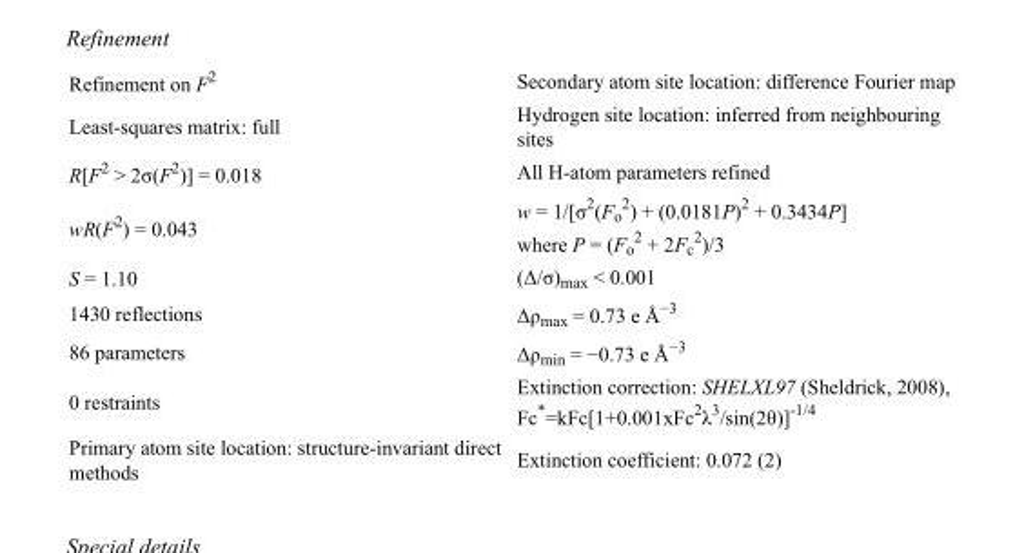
<table><tbody><tr><td>Refinement on F<sup>2</sup></td><td>Secondary atom site location: difference Fourier map</td></tr><tr><td>Least-squares matrix: full</td><td>Hydrogen site location: inferred from neighbouring sites</td></tr><tr><td>R[F<sup>2</sup> &gt; 2σ(F<sup>2</sup>)] = 0.018</td><td>All H-atom parameters refined</td></tr><tr><td>wR(F<sup>2</sup>) = 0.043</td><td>w = 1/[σ<sup>2</sup>(F<sub>o</sub> <sup>2</sup>) + (0.0181P)<sup>2</sup> + 0.3434P] where P = (F<sub>o</sub> <sup>2</sup> + 2F<sub>c</sub> <sup>2</sup>)/3</td></tr><tr><td>S = 1.10</td><td>(Δ/σ)<sub>max</sub> &lt; 0.001</td></tr><tr><td>1430 reflections</td><td>Δρ<sub>max</sub> = 0.73 e Å<sup>−3</sup></td></tr><tr><td>86 parameters</td><td>Δρ<sub>min</sub> = −0.73 e Å<sup>−3</sup></td></tr><tr><td>0 restraints</td><td>Extinction correction: SHELXL97 (Sheldrick, 2008), Fc*=kFc[1+0.001xFc<sup>2</sup>λ<sup>3</sup>/sin(2θ)]<sup>-1/4</sup></td></tr><tr><td>Primary atom site location: structure-invariant direct methods</td><td>Extinction coefficient: 0.072 (2)</td></tr></tbody></table>